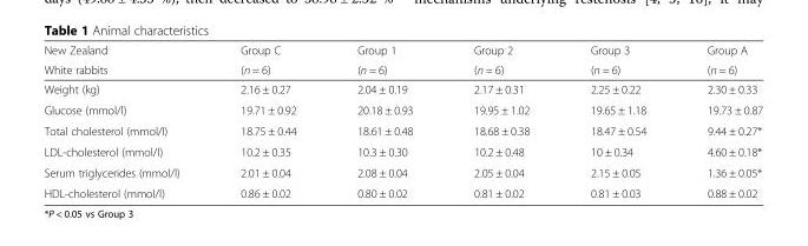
<table><thead><tr><td rowspan="2">New Zealand White rabbits</td><td rowspan="2">Group C (n = 6)</td><td rowspan="2">Group 1 (n = 6)</td><td rowspan="2">Group 2 (n = 6)</td><td rowspan="2">Group 3 (n = 6)</td><td rowspan="2">Group A (n = 6)</td></tr><tr></tr></thead><tbody><tr><td>Weight (kg)</td><td>2.16 ± 0.27</td><td>2.04 ± 0.19</td><td>2.17 ± 0.31</td><td>2.25 ± 0.22</td><td>2.30 ± 0.33</td></tr><tr><td>Glucose (mmol/l)</td><td>19.71 ± 0.92</td><td>20.18 ± 0.93</td><td>19.95 ± 1.02</td><td>19.65 ± 1.18</td><td>19.73 ± 0.87</td></tr><tr><td>Total cholesterol (mmol/l)</td><td>18.75 ± 0.44</td><td>18.61 ± 0.48</td><td>18.68 ± 0.38</td><td>18.47 ± 0.54</td><td>9.44 ± 0.27*</td></tr><tr><td>LDL-cholesterol (mmol/l)</td><td>10.2 ± 0.35</td><td>10.3 ± 0.30</td><td>10.2 ± 0.48</td><td>10 ± 0.34</td><td>4.60 ± 0.18*</td></tr><tr><td>Serum triglycerides (mmol/l)</td><td>2.01 ± 0.04</td><td>2.08 ± 0.04</td><td>2.05 ± 0.04</td><td>2.15 ± 0.05</td><td>1.36 ± 0.05*</td></tr><tr><td>HDL-cholesterol (mmol/l)</td><td>0.86 ± 0.02</td><td>0.80 ± 0.02</td><td>0.81 ± 0.02</td><td>0.81 ± 0.03</td><td>0.88 ± 0.02</td></tr></tbody></table>